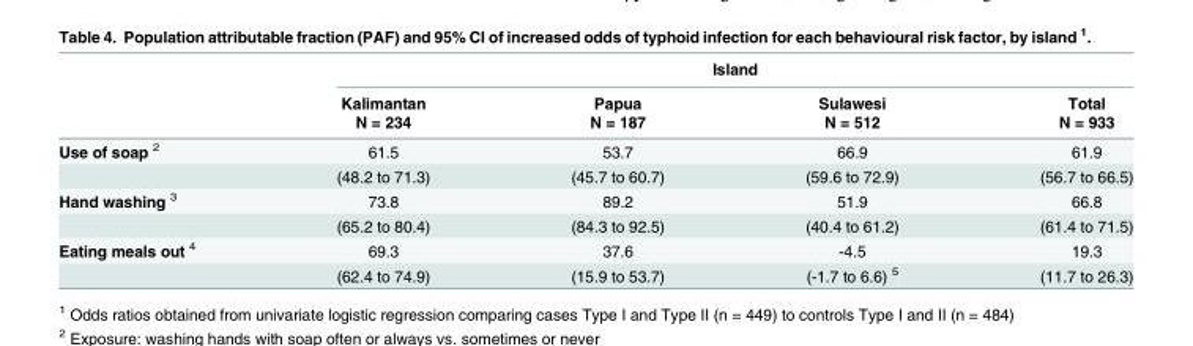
<table><thead><tr><td rowspan="3"></td><td colspan="4">Island</td></tr><tr><td rowspan="2">Kalimantan N = 234</td><td rowspan="2">Papua N = 187</td><td rowspan="2">Sulawesi N = 512</td><td rowspan="2">Total N = 933</td></tr><tr></tr></thead><tbody><tr><td rowspan="2">Use of soap <sup>2</sup></td><td>61.5</td><td>53.7</td><td>66.9</td><td>61.9</td></tr><tr><td>(48.2 to 71.3)</td><td>(45.7 to 60.7)</td><td>(59.6 to 72.9)</td><td>(56.7 to 66.5)</td></tr><tr><td rowspan="2">Hand washing <sup>3</sup></td><td>73.8</td><td>89.2</td><td>51.9</td><td>66.8</td></tr><tr><td>(65.2 to 80.4)</td><td>(84.3 to 92.5)</td><td>(40.4 to 61.2)</td><td>(61.4 to 71.5)</td></tr><tr><td rowspan="2">Eating meals out <sup>4</sup></td><td>69.3</td><td>37.6</td><td>-4.5</td><td>19.3</td></tr><tr><td>(62.4 to 74.9)</td><td>(15.9 to 53.7)</td><td>(-1.7 to 6.6) <sup>5</sup></td><td>(11.7 to 26.3)</td></tr></tbody></table>